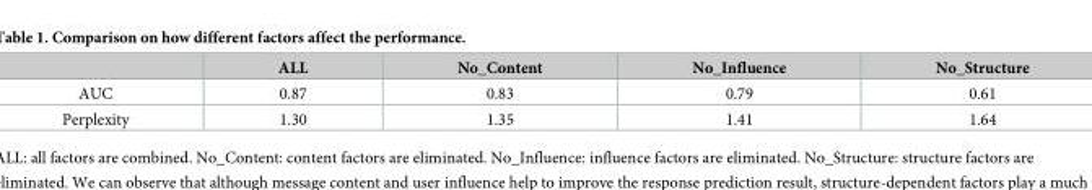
<table><thead><tr><td></td><td>ALL</td><td>No_Content</td><td>No_Influence</td><td>No_Structure</td></tr></thead><tbody><tr><td>AUC</td><td>0.87</td><td>0.83</td><td>0.79</td><td>0.61</td></tr><tr><td>Perplexity</td><td>1.30</td><td>1.35</td><td>1.41</td><td>1.64</td></tr></tbody></table>